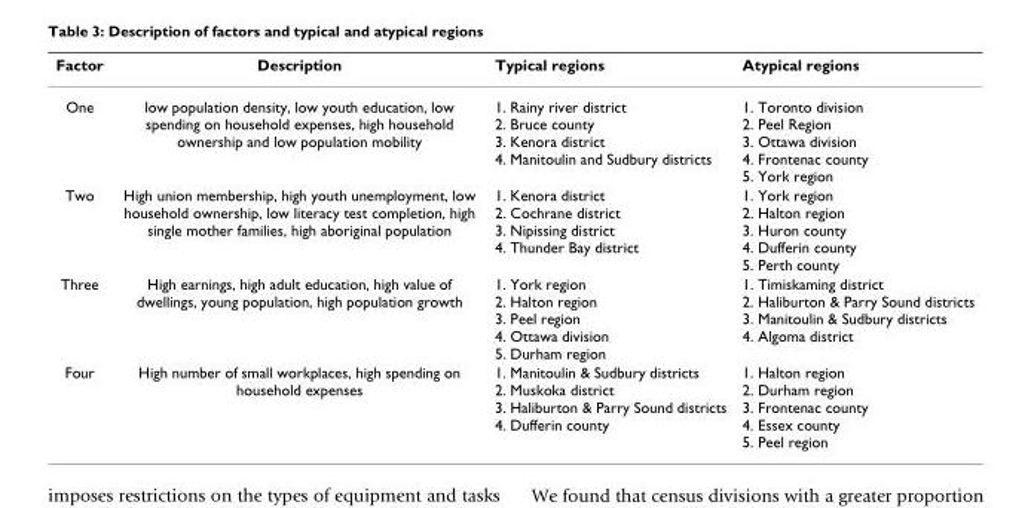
<table><thead><tr><td>Factor</td><td>Description</td><td>Typical regions</td><td>Atypical regions</td></tr></thead><tbody><tr><td>One</td><td>low population density, low youth education, low spending on household expenses, high household ownership and low population mobility</td><td>1. Rainy river district 2. Bruce county 3. Kenora district 4. Manitoulin and Sudbury districts</td><td>1. Toronto division 2. Peel Region 3. Ottawa division 4. Frontenac county 5. York region</td></tr><tr><td>Two</td><td>High union membership, high youth unemployment, low household ownership, low literacy test completion, high single mother families, high aboriginal population</td><td>1. Kenora district 2. Cochrane district 3. Nipissing district 4. Thunder Bay district</td><td>1. York region 2. Halton region 3. Huron county 4. Dufferin county 5. Perth county</td></tr><tr><td>Three</td><td>High earnings, high adult education, high value of dwellings, young population, high population growth</td><td>1. York region 2. Halton region 3. Peel region 4. Ottawa division 5. Durham region</td><td>1. Timiskaming district 2. Haliburton &amp; Parry Sound districts 3. Manitoulin &amp; Sudbury districts 4. Algoma district</td></tr><tr><td>Four</td><td>High number of small workplaces, high spending on household expenses</td><td>1. Manitoulin &amp; Sudbury districts 2. Muskoka district 3. Haliburton &amp; Parry Sound districts 4. Dufferin county</td><td>1. Halton region 2. Durham region 3. Frontenac county 4. Essex county 5. Peel region</td></tr></tbody></table>